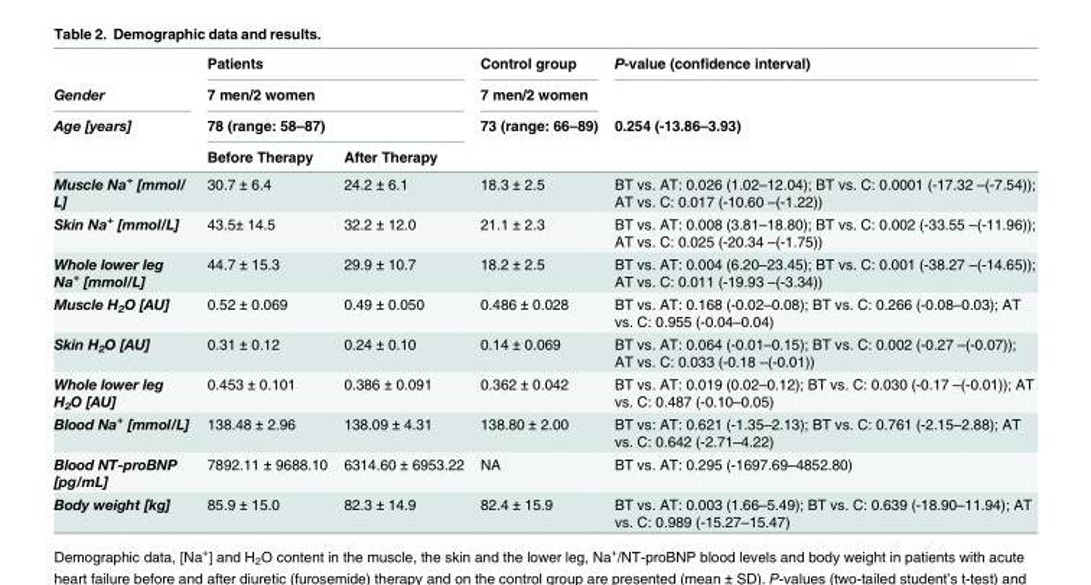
<table><thead><tr><td rowspan="4">Gender Age [years]</td><td rowspan="3" colspan="2">Patients 7 men/2 women 78 (range: 58–87)</td><td rowspan="4">Control group 7 men/2 women 73 (range: 66–89)</td><td rowspan="4">P-value (confidence interval) 0.254 (-13.86–3.93)</td></tr><tr></tr><tr></tr><tr><td>Before Therapy</td><td>After Therapy</td></tr></thead><tbody><tr><td>Muscle Na<sup>+</sup> [mmol/ L]</td><td>30.7 ± 6.4</td><td>24.2 ± 6.1</td><td>18.3 ± 2.5</td><td>BT vs. AT: 0.026 (1.02–12.04); BT vs. C: 0.0001 (-17.32 –(-7.54)); AT vs. C: 0.017 (-10.60 –(-1.22))</td></tr><tr><td>Skin Na<sup>+</sup> [mmol/L]</td><td>43.5± 14.5</td><td>32.2 ± 12.0</td><td>21.1 ± 2.3</td><td>BT vs. AT: 0.008 (3.81–18.80); BT vs. C: 0.002 (-33.55 –(-11.96)); AT vs. C: 0.025 (-20.34 –(-1.75))</td></tr><tr><td>Whole lower leg Na<sup>+</sup> [mmol/L]</td><td>44.7 ± 15.3</td><td>29.9 ± 10.7</td><td>18.2 ± 2.5</td><td>BT vs. AT: 0.004 (6.20–23.45); BT vs. C: 0.001 (-38.27 –(-14.65)); AT vs. C: 0.011 (-19.93 –(-3.34))</td></tr><tr><td>Muscle H<sub>2</sub>O [AU]</td><td>0.52 ± 0.069</td><td>0.49 ± 0.050</td><td>0.486 ± 0.028</td><td>BT vs. AT: 0.168 (-0.02–0.08); BT vs. C: 0.266 (-0.08–0.03); AT vs. C: 0.955 (-0.04–0.04)</td></tr><tr><td>Skin H<sub>2</sub>O [AU]</td><td>0.31 ± 0.12</td><td>0.24 ± 0.10</td><td>0.14 ± 0.069</td><td>BT vs. AT: 0.064 (-0.01–0.15); BT vs. C: 0.002 (-0.27 –(-0.07)); AT vs. C: 0.033 (-0.18 –(-0.01))</td></tr><tr><td>Whole lower leg H<sub>2</sub>O [AU]</td><td>0.453 ± 0.101</td><td>0.386 ± 0.091</td><td>0.362 ± 0.042</td><td>BT vs. AT: 0.019 (0.02–0.12); BT vs. C: 0.030 (-0.17 –(-0.01)); AT vs. C: 0.487 (-0.10–0.05)</td></tr><tr><td>Blood Na<sup>+</sup> [mmol/L]</td><td>138.48 ± 2.96</td><td>138.09 ± 4.31</td><td>138.80 ± 2.00</td><td>BT vs: AT: 0.621 (-1.35–2.13); BT vs. C: 0.761 (-2.15–2.88); AT vs. C: 0.642 (-2.71–4.22)</td></tr><tr><td>Blood NT-proBNP [pg/mL]</td><td>7892.11 ± 9688.10</td><td>6314.60 ± 6953.22</td><td>NA</td><td>BT vs. AT: 0.295 (-1697.69–4852.80)</td></tr><tr><td>Body weight [kg]</td><td>85.9 ± 15.0</td><td>82.3 ± 14.9</td><td>82.4 ± 15.9</td><td>BT vs. AT: 0.003 (1.66–5.49); BT vs. C: 0.639 (-18.90–11.94); AT vs. C: 0.989 (-15.27–15.47)</td></tr></tbody></table>